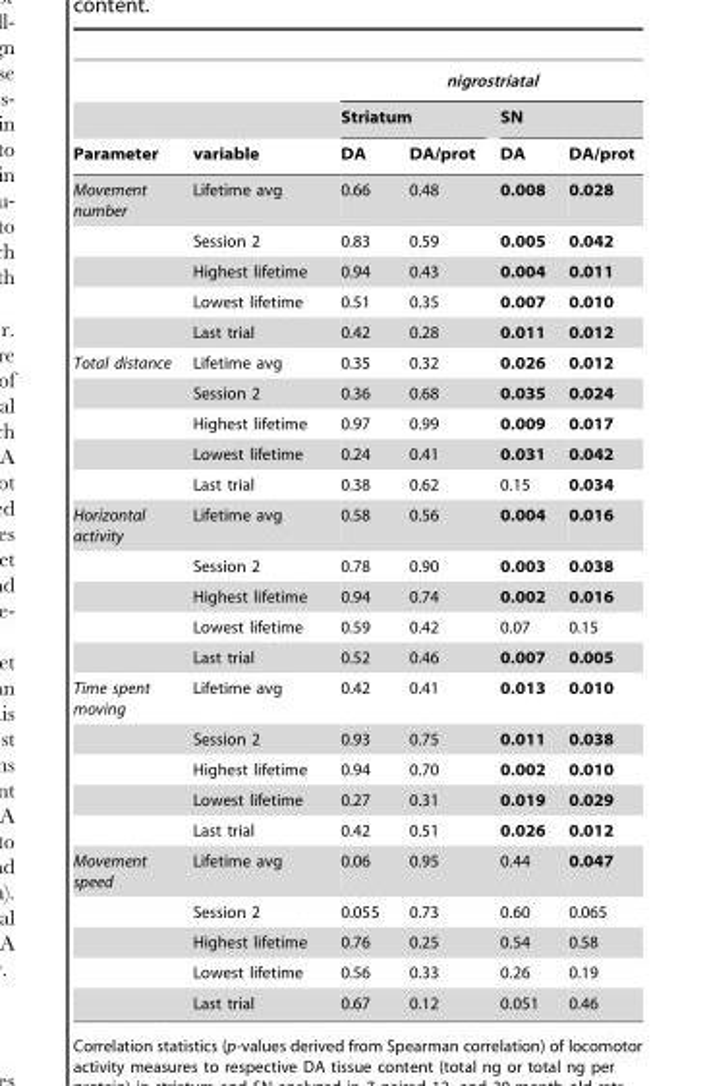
<table><thead><tr><td rowspan="3">Parameter</td><td rowspan="3">variable</td><td colspan="4">nigrostriatal</td></tr><tr><td colspan="2">Striatum</td><td colspan="2">SN</td></tr><tr><td>DA</td><td>DA/prot</td><td>DA</td><td>DA/prot</td></tr></thead><tbody><tr><td rowspan="5">Movement number</td><td>Lifetime avg</td><td>0.66</td><td>0.48</td><td>0.008</td><td>0.028</td></tr><tr><td>Session 2</td><td>0.83</td><td>0.59</td><td>0.005</td><td>0.042</td></tr><tr><td>Highest lifetime</td><td>0.94</td><td>0.43</td><td>0.004</td><td>0.011</td></tr><tr><td>Lowest lifetime</td><td>0.51</td><td>0.35</td><td>0.007</td><td>0.010</td></tr><tr><td>Last trial</td><td>0.42</td><td>0.28</td><td>0.011</td><td>0.012</td></tr><tr><td rowspan="5">Total distance</td><td>Lifetime avg</td><td>0.35</td><td>0.32</td><td>0.026</td><td>0.012</td></tr><tr><td>Session 2</td><td>0.36</td><td>0.68</td><td>0.035</td><td>0.024</td></tr><tr><td>Highest lifetime</td><td>0.97</td><td>0.99</td><td>0.009</td><td>0.017</td></tr><tr><td>Lowest lifetime</td><td>0.24</td><td>0.41</td><td>0.031</td><td>0.042</td></tr><tr><td>Last trial</td><td>0.38</td><td>0.62</td><td>0.15</td><td>0.034</td></tr><tr><td rowspan="5">Horizontal activity</td><td>Lifetime avg</td><td>0.58</td><td>0.56</td><td>0.004</td><td>0.016</td></tr><tr><td>Session 2</td><td>0.78</td><td>0.90</td><td>0.003</td><td>0.038</td></tr><tr><td>Highest lifetime</td><td>0.94</td><td>0.74</td><td>0.002</td><td>0.016</td></tr><tr><td>Lowest lifetime</td><td>0.59</td><td>0.42</td><td>0.07</td><td>0.15</td></tr><tr><td>Last trial</td><td>0.52</td><td>0.46</td><td>0.007</td><td>0.005</td></tr><tr><td rowspan="5">Time spent moving</td><td>Lifetime avg</td><td>0.42</td><td>0.41</td><td>0.013</td><td>0.010</td></tr><tr><td>Session 2</td><td>0.93</td><td>0.75</td><td>0.011</td><td>0.038</td></tr><tr><td>Highest lifetime</td><td>0.94</td><td>0.70</td><td>0.002</td><td>0.010</td></tr><tr><td>Lowest lifetime</td><td>0.27</td><td>0.31</td><td>0.019</td><td>0.029</td></tr><tr><td>Last trial</td><td>0.42</td><td>0.51</td><td>0.026</td><td>0.012</td></tr><tr><td rowspan="5">Movement speed</td><td>Lifetime avg</td><td>0.06</td><td>0.95</td><td>0.44</td><td>0.047</td></tr><tr><td>Session 2</td><td>0.055</td><td>0.73</td><td>0.60</td><td>0.065</td></tr><tr><td>Highest lifetime</td><td>0.76</td><td>0.25</td><td>0.54</td><td>0.58</td></tr><tr><td>Lowest lifetime</td><td>0.56</td><td>0.33</td><td>0.26</td><td>0.19</td></tr><tr><td>Last trial</td><td>0.67</td><td>0.12</td><td>0.051</td><td>0.46</td></tr></tbody></table>